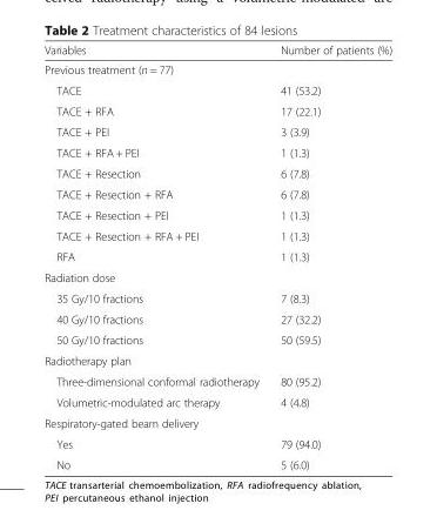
<table><thead><tr><td>Variables</td><td>Number of patients (%)</td></tr></thead><tbody><tr><td colspan="2">Previous treatment (n = 77)</td></tr><tr><td>TACE</td><td>41 (53.2)</td></tr><tr><td>TACE + RFA</td><td>17 (22.1)</td></tr><tr><td>TACE + PEI</td><td>3 (3.9)</td></tr><tr><td>TACE + RFA + PEI</td><td>1 (1.3)</td></tr><tr><td>TACE + Resection</td><td>6 (7.8)</td></tr><tr><td>TACE + Resection + RFA</td><td>6 (7.8)</td></tr><tr><td>TACE + Resection + PEI</td><td>1 (1.3)</td></tr><tr><td>TACE + Resection + RFA + PEI</td><td>1 (1.3)</td></tr><tr><td>RFA</td><td>1 (1.3)</td></tr><tr><td colspan="2">Radiation dose</td></tr><tr><td>35 Gy/10 fractions</td><td>7 (8.3)</td></tr><tr><td>40 Gy/10 fractions</td><td>27 (32.2)</td></tr><tr><td>50 Gy/10 fractions</td><td>50 (59.5)</td></tr><tr><td colspan="2">Radiotherapy plan</td></tr><tr><td>Three-dimensional conformal radiotherapy</td><td>80 (95.2)</td></tr><tr><td>Volumetric-modulated arc therapy</td><td>4 (4.8)</td></tr><tr><td colspan="2">Respiratory-gated beam delivery</td></tr><tr><td>Yes</td><td>79 (94.0)</td></tr><tr><td>No</td><td>5 (6.0)</td></tr></tbody></table>